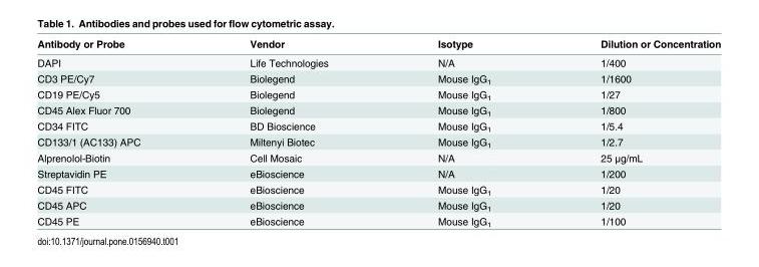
<table><thead><tr><td>Antibody or Probe</td><td>Vendor</td><td>Isotype</td><td>Dilution or Concentration</td></tr></thead><tbody><tr><td>DAPI</td><td>Life Technologies</td><td>N/A</td><td>1/400</td></tr><tr><td>CD3 PE/Cy7</td><td>Biolegend</td><td>Mouse IgG<sub>1</sub></td><td>1/1600</td></tr><tr><td>CD19 PE/Cy5</td><td>Biolegend</td><td>Mouse IgG<sub>1</sub></td><td>1/27</td></tr><tr><td>CD45 Alex Fluor 700</td><td>Biolegend</td><td>Mouse IgG<sub>1</sub></td><td>1/800</td></tr><tr><td>CD34 FITC</td><td>BD Bioscience</td><td>Mouse IgG<sub>1</sub></td><td>1/5.4</td></tr><tr><td>CD133/1 (AC133) APC</td><td>Miltenyi Biotec</td><td>Mouse IgG<sub>1</sub></td><td>1/2.7</td></tr><tr><td>Alprenolol-Biotin</td><td>Cell Mosaic</td><td>N/A</td><td>25 μg/mL</td></tr><tr><td>Streptavidin PE</td><td>eBioscience</td><td>N/A</td><td>1/200</td></tr><tr><td>CD45 FITC</td><td>eBioscience</td><td>Mouse IgG<sub>1</sub></td><td>1/20</td></tr><tr><td>CD45 APC</td><td>eBioscience</td><td>Mouse IgG<sub>1</sub></td><td>1/20</td></tr><tr><td>CD45 PE</td><td>eBioscience</td><td>Mouse IgG<sub>1</sub></td><td>1/100</td></tr></tbody></table>